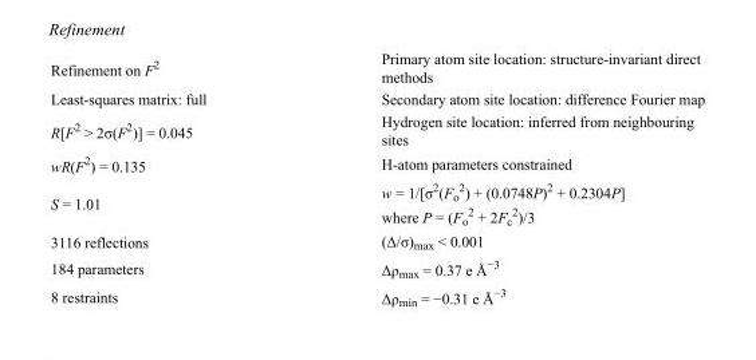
<table><tbody><tr><td>Refinement on F<sup>2</sup></td><td>Primary atom site location: structure-invariant direct methods</td></tr><tr><td>Least-squares matrix: full</td><td>Secondary atom site location: difference Fourier map</td></tr><tr><td>R[F<sup>2</sup> &gt; 2σ(F<sup>2</sup>)] = 0.045</td><td>Hydrogen site location: inferred from neighbouring sites</td></tr><tr><td>wR(F<sup>2</sup>) = 0.135</td><td>H-atom parameters constrained</td></tr><tr><td>S = 1.01</td><td>w = 1/[σ<sup>2</sup>(F<sub>o</sub> <sup>2</sup>) + (0.0748P)<sup>2</sup> + 0.2304P] where P = (F<sub>o</sub> <sup>2</sup> + 2F<sub>c</sub> <sup>2</sup>)/3</td></tr><tr><td>3116 reflections</td><td>(Δ/σ)<sub>max</sub> &lt; 0.001</td></tr><tr><td>184 parameters</td><td>Δρ<sub>max</sub> = 0.37 e Å<sup>−3</sup></td></tr><tr><td>8 restraints</td><td>Δρ<sub>min</sub> = −0.31 e Å<sup>−3</sup></td></tr></tbody></table>